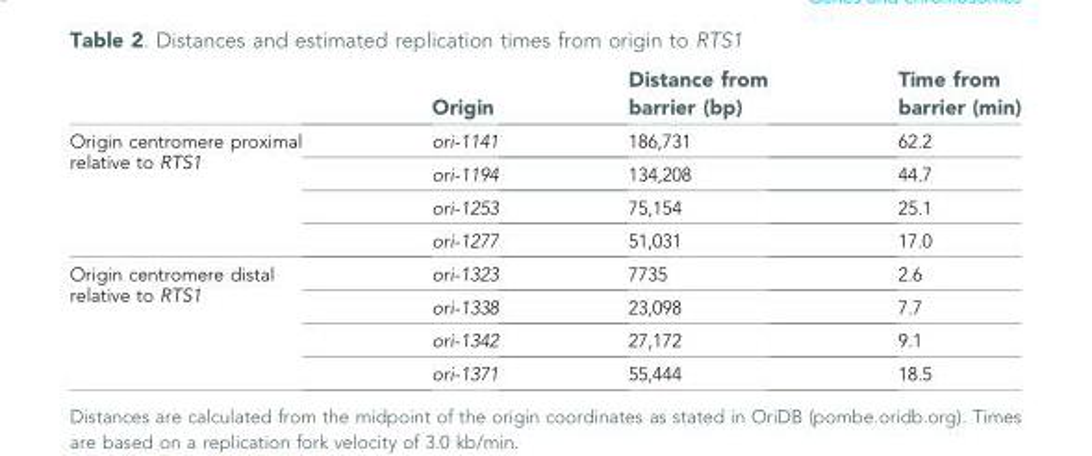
<table><thead><tr><td></td><td>Origin</td><td>Distance from barrier (bp)</td><td>Time from barrier (min)</td></tr></thead><tbody><tr><td rowspan="4">Origin centromere proximal relative to RTS1</td><td>ori-1141</td><td>186,731</td><td>62.2</td></tr><tr><td>ori-1194</td><td>134,208</td><td>44.7</td></tr><tr><td>ori-1253</td><td>75,154</td><td>25.1</td></tr><tr><td>ori-1277</td><td>51,031</td><td>17.0</td></tr><tr><td rowspan="4">Origin centromere distal relative to RTS1</td><td>ori-1323</td><td>7735</td><td>2.6</td></tr><tr><td>ori-1338</td><td>23,098</td><td>7.7</td></tr><tr><td>ori-1342</td><td>27,172</td><td>9.1</td></tr><tr><td>ori-1371</td><td>55,444</td><td>18.5</td></tr></tbody></table>